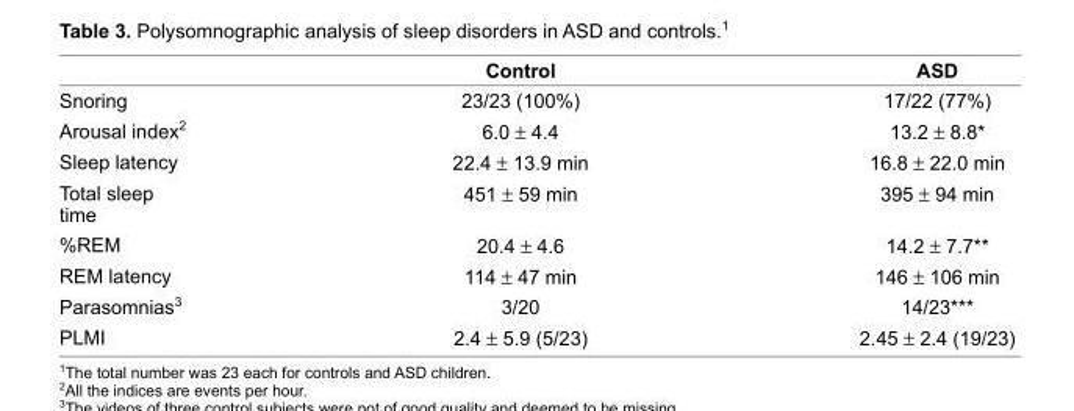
<table><thead><tr><td></td><td>Control</td><td>ASD</td></tr></thead><tbody><tr><td>Snoring</td><td>23/23 (100%)</td><td>17/22 (77%)</td></tr><tr><td>Arousal index<sup>2</sup></td><td>6.0 ± 4.4</td><td>13.2 ± 8.8*</td></tr><tr><td>Sleep latency</td><td>22.4 ± 13.9 min</td><td>16.8 ± 22.0 min</td></tr><tr><td>Total sleep time</td><td>451 ± 59 min</td><td>395 ± 94 min</td></tr><tr><td>%REM</td><td>20.4 ± 4.6</td><td>14.2 ± 7.7**</td></tr><tr><td>REM latency</td><td>114 ± 47 min</td><td>146 ± 106 min</td></tr><tr><td>Parasomnias<sup>3</sup></td><td>3/20</td><td>14/23***</td></tr><tr><td>PLMI</td><td>2.4 ± 5.9 (5/23)</td><td>2.45 ± 2.4 (19/23)</td></tr></tbody></table>